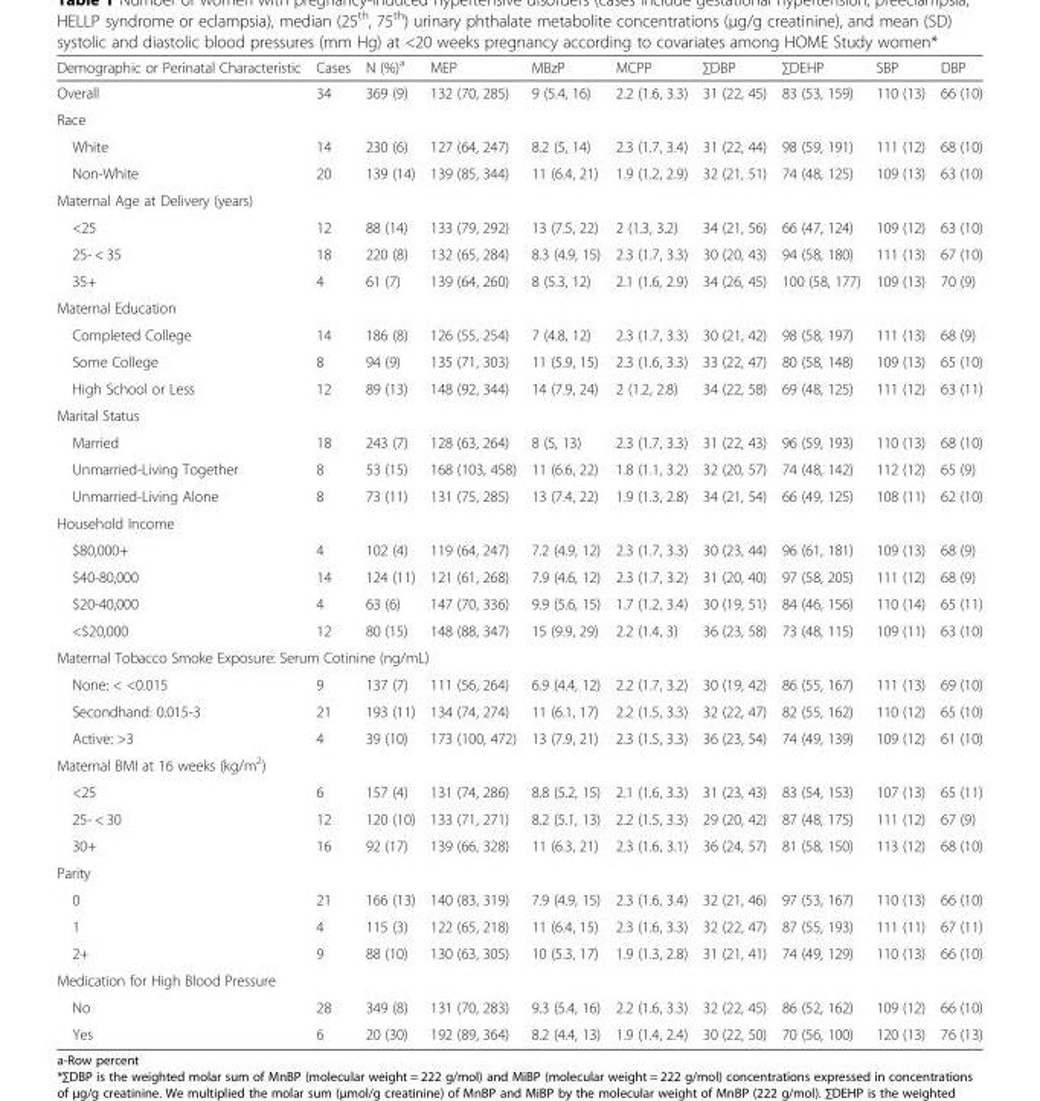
<table><thead><tr><td>Demographic or Perinatal Characteristic</td><td>Cases</td><td>N (%)<sup>a</sup></td><td>MEP</td><td>MBzP</td><td>MCPP</td><td>∑DBP</td><td>∑DEHP</td><td>SBP</td><td>DBP</td></tr></thead><tbody><tr><td>Overall</td><td>34</td><td>369 (9)</td><td>132 (70, 285)</td><td>9 (5.4, 16)</td><td>2.2 (1.6, 3.3)</td><td>31 (22, 45)</td><td>83 (53, 159)</td><td>110 (13)</td><td>66 (10)</td></tr><tr><td colspan="10">Race</td></tr><tr><td>White</td><td>14</td><td>230 (6)</td><td>127 (64, 247)</td><td>8.2 (5, 14)</td><td>2.3 (1.7, 3.4)</td><td>31 (22, 44)</td><td>98 (59, 191)</td><td>111 (12)</td><td>68 (10)</td></tr><tr><td>Non-White</td><td>20</td><td>139 (14)</td><td>139 (85, 344)</td><td>11 (6.4, 21)</td><td>1.9 (1.2, 2.9)</td><td>32 (21, 51)</td><td>74 (48, 125)</td><td>109 (13)</td><td>63 (10)</td></tr><tr><td colspan="10">Maternal Age at Delivery (years)</td></tr><tr><td>&lt;25</td><td>12</td><td>88 (14)</td><td>133 (79, 292)</td><td>13 (7.5, 22)</td><td>2 (1.3, 3.2)</td><td>34 (21, 56)</td><td>66 (47, 124)</td><td>109 (12)</td><td>63 (10)</td></tr><tr><td>25- &lt; 35</td><td>18</td><td>220 (8)</td><td>132 (65, 284)</td><td>8.3 (4.9, 15)</td><td>2.3 (1.7, 3.3)</td><td>30 (20, 43)</td><td>94 (58, 180)</td><td>111 (13)</td><td>67 (10)</td></tr><tr><td>35+</td><td>4</td><td>61 (7)</td><td>139 (64, 260)</td><td>8 (5.3, 12)</td><td>2.1 (1.6, 2.9)</td><td>34 (26, 45)</td><td>100 (58, 177)</td><td>109 (13)</td><td>70 (9)</td></tr><tr><td colspan="10">Maternal Education</td></tr><tr><td>Completed College</td><td>14</td><td>186 (8)</td><td>126 (55, 254)</td><td>7 (4.8, 12)</td><td>2.3 (1.7, 3.3)</td><td>30 (21, 42)</td><td>98 (58, 197)</td><td>111 (13)</td><td>68 (9)</td></tr><tr><td>Some College</td><td>8</td><td>94 (9)</td><td>135 (71, 303)</td><td>11 (5.9, 15)</td><td>2.3 (1.6, 3.3)</td><td>33 (22, 47)</td><td>80 (58, 148)</td><td>109 (13)</td><td>65 (10)</td></tr><tr><td>High School or Less</td><td>12</td><td>89 (13)</td><td>148 (92, 344)</td><td>14 (7.9, 24)</td><td>2 (1.2, 2.8)</td><td>34 (22, 58)</td><td>69 (48, 125)</td><td>111 (12)</td><td>63 (11)</td></tr><tr><td colspan="10">Marital Status</td></tr><tr><td>Married</td><td>18</td><td>243 (7)</td><td>128 (63, 264)</td><td>8 (5, 13)</td><td>2.3 (1.7, 3.3)</td><td>31 (22, 43)</td><td>96 (59, 193)</td><td>110 (13)</td><td>68 (10)</td></tr><tr><td>Unmarried-Living Together</td><td>8</td><td>53 (15)</td><td>168 (103, 458)</td><td>11 (6.6, 22)</td><td>1.8 (1.1, 3.2)</td><td>32 (20, 57)</td><td>74 (48, 142)</td><td>112 (12)</td><td>65 (9)</td></tr><tr><td>Unmarried-Living Alone</td><td>8</td><td>73 (11)</td><td>131 (75, 285)</td><td>13 (7.4, 22)</td><td>1.9 (1.3, 2.8)</td><td>34 (21, 54)</td><td>66 (49, 125)</td><td>108 (11)</td><td>62 (10)</td></tr><tr><td colspan="10">Household Income</td></tr><tr><td>$80,000+</td><td>4</td><td>102 (4)</td><td>119 (64, 247)</td><td>7.2 (4.9, 12)</td><td>2.3 (1.7, 3.3)</td><td>30 (23, 44)</td><td>96 (61, 181)</td><td>109 (13)</td><td>68 (9)</td></tr><tr><td>$40-80,000</td><td>14</td><td>124 (11)</td><td>121 (61, 268)</td><td>7.9 (4.6, 12)</td><td>2.3 (1.7, 3.2)</td><td>31 (20, 40)</td><td>97 (58, 205)</td><td>111 (12)</td><td>68 (9)</td></tr><tr><td>$20-40,000</td><td>4</td><td>63 (6)</td><td>147 (70, 336)</td><td>9.9 (5.6, 15)</td><td>1.7 (1.2, 3.4)</td><td>30 (19, 51)</td><td>84 (46, 156)</td><td>110 (14)</td><td>65 (11)</td></tr><tr><td>&lt;$20,000</td><td>12</td><td>80 (15)</td><td>148 (88, 347)</td><td>15 (9.9, 29)</td><td>2.2 (1.4, 3)</td><td>36 (23, 58)</td><td>73 (48, 115)</td><td>109 (11)</td><td>63 (10)</td></tr><tr><td colspan="10">Maternal Tobacco Smoke Exposure: Serum Cotinine (ng/mL)</td></tr><tr><td>None: &lt; &lt;0.015</td><td>9</td><td>137 (7)</td><td>111 (56, 264)</td><td>6.9 (4.4, 12)</td><td>2.2 (1.7, 3.2)</td><td>30 (19, 42)</td><td>86 (55, 167)</td><td>111 (13)</td><td>69 (10)</td></tr><tr><td>Secondhand: 0.015-3</td><td>21</td><td>193 (11)</td><td>134 (74, 274)</td><td>11 (6.1, 17)</td><td>2.2 (1.5, 3.3)</td><td>32 (22, 47)</td><td>82 (55, 162)</td><td>110 (12)</td><td>65 (10)</td></tr><tr><td>Active: &gt;3</td><td>4</td><td>39 (10)</td><td>173 (100, 472)</td><td>13 (7.9, 21)</td><td>2.3 (1.5, 3.3)</td><td>36 (23, 54)</td><td>74 (49, 139)</td><td>109 (12)</td><td>61 (10)</td></tr><tr><td colspan="10">Maternal BMI at 16 weeks (kg/m<sup>2</sup>)</td></tr><tr><td>&lt;25</td><td>6</td><td>157 (4)</td><td>131 (74, 286)</td><td>8.8 (5.2, 15)</td><td>2.1 (1.6, 3.3)</td><td>31 (23, 43)</td><td>83 (54, 153)</td><td>107 (13)</td><td>65 (11)</td></tr><tr><td>25- &lt; 30</td><td>12</td><td>120 (10)</td><td>133 (71, 271)</td><td>8.2 (5.1, 13)</td><td>2.2 (1.5, 3.3)</td><td>29 (20, 42)</td><td>87 (48, 175)</td><td>111 (12)</td><td>67 (9)</td></tr><tr><td>30+</td><td>16</td><td>92 (17)</td><td>139 (66, 328)</td><td>11 (6.3, 21)</td><td>2.3 (1.6, 3.1)</td><td>36 (24, 57)</td><td>81 (58, 150)</td><td>113 (12)</td><td>68 (10)</td></tr><tr><td colspan="10">Parity</td></tr><tr><td>0</td><td>21</td><td>166 (13)</td><td>140 (83, 319)</td><td>7.9 (4.9, 15)</td><td>2.3 (1.6, 3.4)</td><td>32 (21, 46)</td><td>97 (53, 167)</td><td>110 (13)</td><td>66 (10)</td></tr><tr><td>1</td><td>4</td><td>115 (3)</td><td>122 (65, 218)</td><td>11 (6.4, 15)</td><td>2.3 (1.6, 3.3)</td><td>32 (22, 47)</td><td>87 (55, 193)</td><td>111 (11)</td><td>67 (11)</td></tr><tr><td>2+</td><td>9</td><td>88 (10)</td><td>130 (63, 305)</td><td>10 (5.3, 17)</td><td>1.9 (1.3, 2.8)</td><td>31 (21, 41)</td><td>74 (49, 129)</td><td>110 (13)</td><td>66 (10)</td></tr><tr><td colspan="10">Medication for High Blood Pressure</td></tr><tr><td>No</td><td>28</td><td>349 (8)</td><td>131 (70, 283)</td><td>9.3 (5.4, 16)</td><td>2.2 (1.6, 3.3)</td><td>32 (22, 45)</td><td>86 (52, 162)</td><td>109 (12)</td><td>66 (10)</td></tr><tr><td>Yes</td><td>6</td><td>20 (30)</td><td>192 (89, 364)</td><td>8.2 (4.4, 13)</td><td>1.9 (1.4, 2.4)</td><td>30 (22, 50)</td><td>70 (56, 100)</td><td>120 (13)</td><td>76 (13)</td></tr></tbody></table>